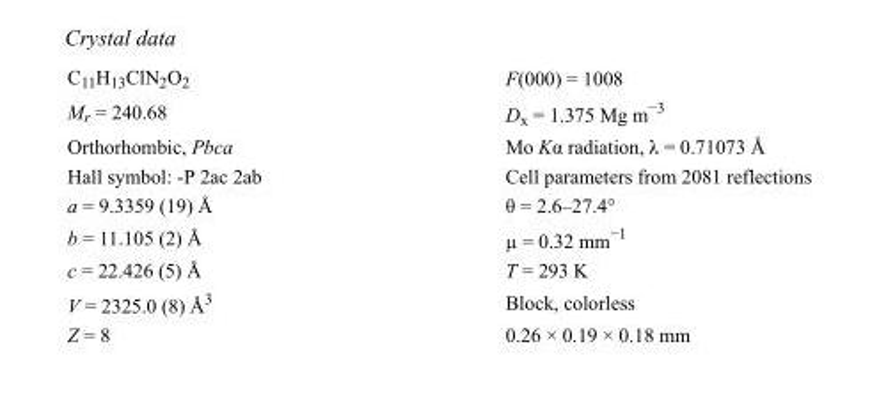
<table><tbody><tr><td>C<sub>11</sub>H<sub>13</sub>ClN<sub>2</sub>O<sub>2</sub></td><td>F(000) = 1008</td></tr><tr><td>M<sub>r</sub> = 240.68</td><td>D<sub>x</sub> = 1.375 Mg m<sup>−3</sup></td></tr><tr><td>Orthorhombic, Pbca</td><td>Mo Kα radiation, λ = 0.71073 Å</td></tr><tr><td>Hall symbol: -P 2ac 2ab</td><td>Cell parameters from 2081 reflections</td></tr><tr><td>a = 9.3359 (19) Å</td><td>θ = 2.6–27.4°</td></tr><tr><td>b = 11.105 (2) Å</td><td>µ = 0.32 mm<sup>−1</sup></td></tr><tr><td>c = 22.426 (5) Å</td><td>T = 293 K</td></tr><tr><td>V = 2325.0 (8) Å<sup>3</sup></td><td>Block, colorless</td></tr><tr><td>Z = 8</td><td>0.26 × 0.19 × 0.18 mm</td></tr></tbody></table>